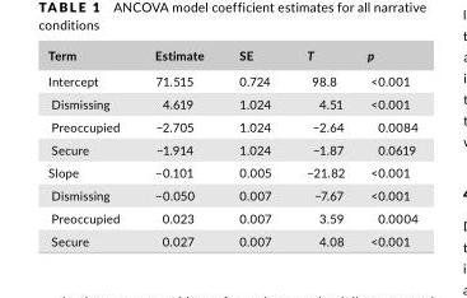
<table><thead><tr><td>Term</td><td>Estimate</td><td>SE</td><td>T</td><td>p</td></tr></thead><tbody><tr><td>Intercept</td><td>71.515</td><td>0.724</td><td>98.8</td><td>&lt;0.001</td></tr><tr><td>Dismissing</td><td>4.619</td><td>1.024</td><td>4.51</td><td>&lt;0.001</td></tr><tr><td>Preoccupied</td><td>−2.705</td><td>1.024</td><td>−2.64</td><td>0.0084</td></tr><tr><td>Secure</td><td>−1.914</td><td>1.024</td><td>−1.87</td><td>0.0619</td></tr><tr><td>Slope</td><td>−0.101</td><td>0.005</td><td>−21.82</td><td>&lt;0.001</td></tr><tr><td>Dismissing</td><td>−0.050</td><td>0.007</td><td>−7.67</td><td>&lt;0.001</td></tr><tr><td>Preoccupied</td><td>0.023</td><td>0.007</td><td>3.59</td><td>0.0004</td></tr><tr><td>Secure</td><td>0.027</td><td>0.007</td><td>4.08</td><td>&lt;0.001</td></tr></tbody></table>